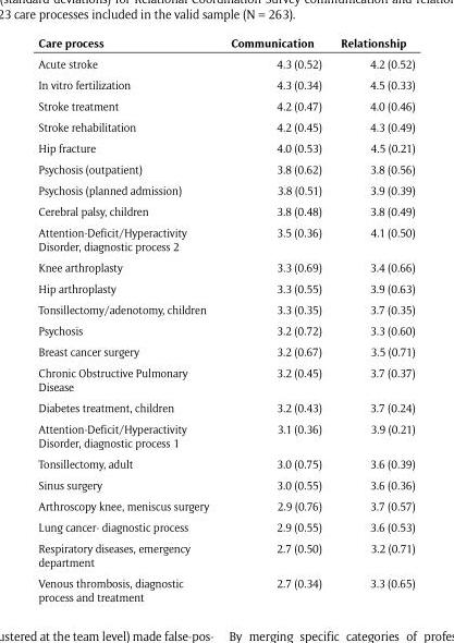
<table><thead><tr><td>Care process</td><td>Communication</td><td>Relationship</td></tr></thead><tbody><tr><td>Acute stroke</td><td>4.3 (0.52)</td><td>4.2 (0.52)</td></tr><tr><td>In vitro fertilization</td><td>4.3 (0.34)</td><td>4.5 (0.33)</td></tr><tr><td>Stroke treatment</td><td>4.2 (0.47)</td><td>4.0 (0.46)</td></tr><tr><td>Stroke rehabilitation</td><td>4.2 (0.45)</td><td>4.3 (0.49)</td></tr><tr><td>Hip fracture</td><td>4.0 (0.53)</td><td>4.5 (0.21)</td></tr><tr><td>Psychosis (outpatient)</td><td>3.8 (0.62)</td><td>3.8 (0.56)</td></tr><tr><td>Psychosis (planned admission)</td><td>3.8 (0.51)</td><td>3.9 (0.39)</td></tr><tr><td>Cerebral palsy, children</td><td>3.8 (0.48)</td><td>3.8 (0.49)</td></tr><tr><td>Attention-Deficit/Hyperactivity Disorder, diagnostic process 2</td><td>3.5 (0.36)</td><td>4.1 (0.50)</td></tr><tr><td>Knee arthroplasty</td><td>3.3 (0.69)</td><td>3.4 (0.66)</td></tr><tr><td>Hip arthroplasty</td><td>3.3 (0.55)</td><td>3.9 (0.63)</td></tr><tr><td>Tonsillectomy/adenotomy, children</td><td>3.3 (0.35)</td><td>3.7 (0.35)</td></tr><tr><td>Psychosis</td><td>3.2 (0.72)</td><td>3.3 (0.60)</td></tr><tr><td>Breast cancer surgery</td><td>3.2 (0.67)</td><td>3.5 (0.71)</td></tr><tr><td>Chronic Obstructive Pulmonary Disease</td><td>3.2 (0.45)</td><td>3.7 (0.37)</td></tr><tr><td>Diabetes treatment, children</td><td>3.2 (0.43)</td><td>3.7 (0.24)</td></tr><tr><td>Attention-Deficit/Hyperactivity Disorder, diagnostic process 1</td><td>3.1 (0.36)</td><td>3.9 (0.21)</td></tr><tr><td>Tonsillectomy, adult</td><td>3.0 (0.75)</td><td>3.6 (0.39)</td></tr><tr><td>Sinus surgery</td><td>3.0 (0.55)</td><td>3.6 (0.36)</td></tr><tr><td>Arthroscopy knee, meniscus surgery</td><td>2.9 (0.76)</td><td>3.7 (0.57)</td></tr><tr><td>Lung cancer- diagnostic process</td><td>2.9 (0.55)</td><td>3.6 (0.53)</td></tr><tr><td>Respiratory diseases, emergency department</td><td>2.7 (0.50)</td><td>3.2 (0.71)</td></tr><tr><td>Venous thrombosis, diagnostic process and treatment</td><td>2.7 (0.34)</td><td>3.3 (0.65)</td></tr></tbody></table>